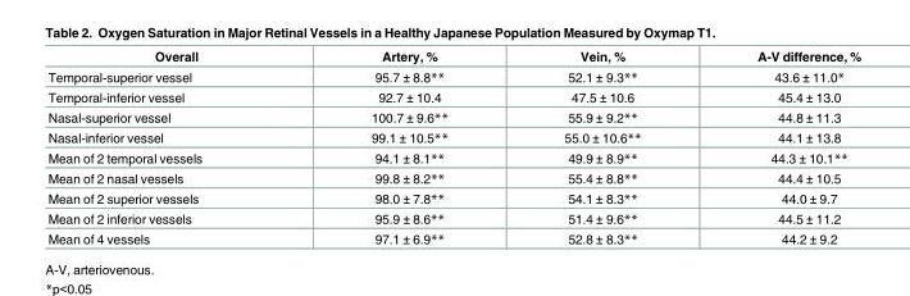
<table><thead><tr><td>Overall</td><td>Artery, %</td><td>Vein, %</td><td>A-V difference, %</td></tr></thead><tbody><tr><td>Temporal-superior vessel</td><td>95.7 ± 8.8**</td><td>52.1 ± 9.3**</td><td>43.6 ± 11.0*</td></tr><tr><td>Temporal-inferior vessel</td><td>92.7 ± 10.4</td><td>47.5 ± 10.6</td><td>45.4 ± 13.0</td></tr><tr><td>Nasal-superior vessel</td><td>100.7 ± 9.6**</td><td>55.9 ± 9.2**</td><td>44.8 ± 11.3</td></tr><tr><td>Nasal-inferior vessel</td><td>99.1 ± 10.5**</td><td>55.0 ± 10.6**</td><td>44.1 ± 13.8</td></tr><tr><td>Mean of 2 temporal vessels</td><td>94.1 ± 8.1**</td><td>49.9 ± 8.9**</td><td>44.3 ± 10.1**</td></tr><tr><td>Mean of 2 nasal vessels</td><td>99.8 ± 8.2**</td><td>55.4 ± 8.8**</td><td>44.4 ± 10.5</td></tr><tr><td>Mean of 2 superior vessels</td><td>98.0 ± 7.8**</td><td>54.1 ± 8.3**</td><td>44.0 ± 9.7</td></tr><tr><td>Mean of 2 inferior vessels</td><td>95.9 ± 8.6**</td><td>51.4 ± 9.6**</td><td>44.5 ± 11.2</td></tr><tr><td>Mean of 4 vessels</td><td>97.1 ± 6.9**</td><td>52.8 ± 8.3**</td><td>44.2 ± 9.2</td></tr></tbody></table>